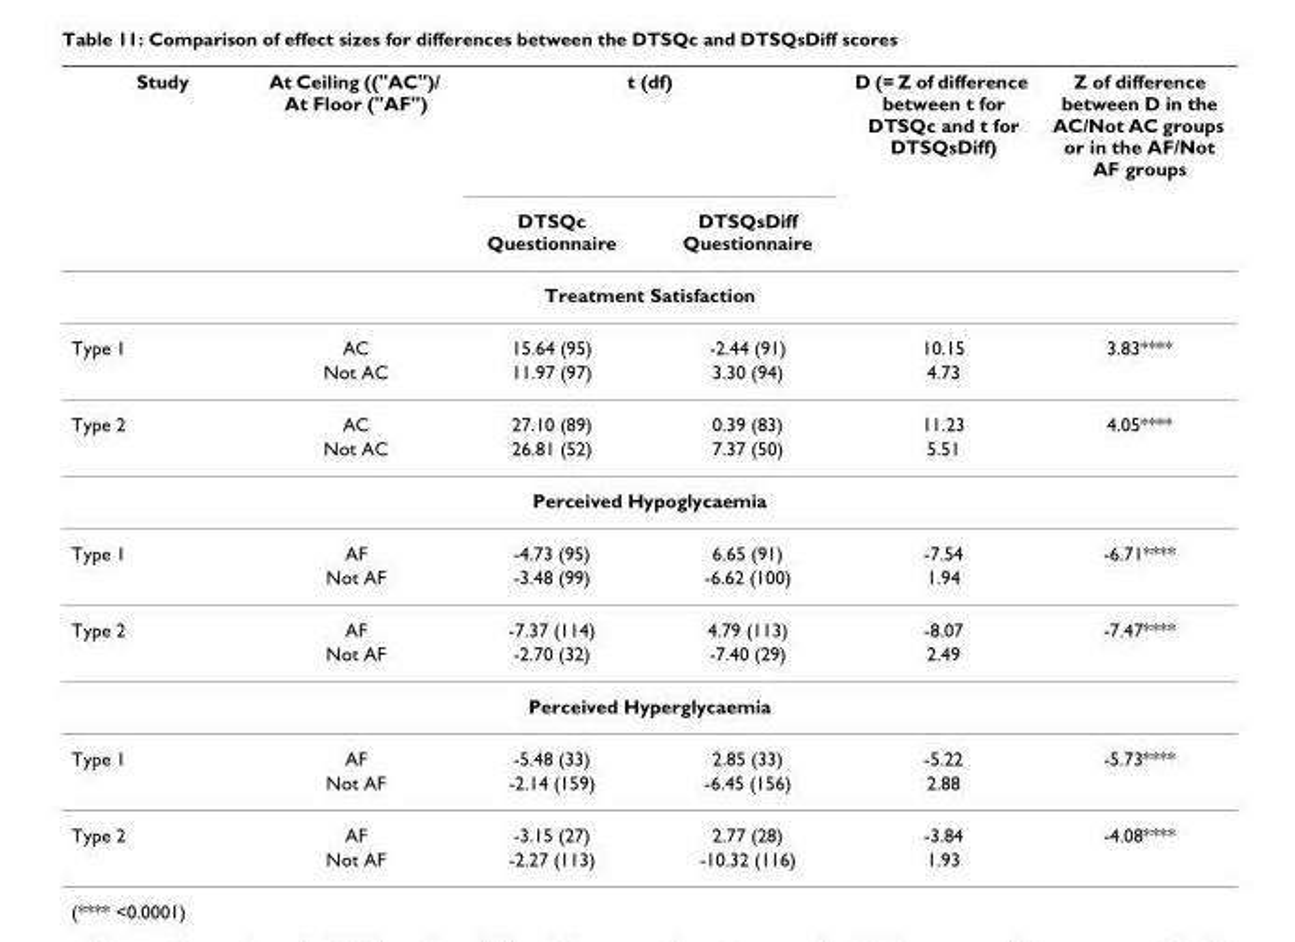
<table><thead><tr><td rowspan="2">Study</td><td rowspan="2">At Ceiling ((&quot;AC&quot;)/ At Floor (&quot;AF&quot;)</td><td colspan="2">t (df)</td><td rowspan="2">D (= Z of difference between t for DTSQc and t for DTSQsDiff)</td><td rowspan="2">Z of difference between D in the AC/Not AC groups or in the AF/Not AF groups</td></tr><tr><td>DTSQc Questionnaire</td><td>DTSQsDiff Questionnaire</td></tr></thead><tbody><tr><td colspan="6">Treatment Satisfaction</td></tr><tr><td rowspan="2">Type 1</td><td>AC</td><td>15.64 (95)</td><td>-2.44 (91)</td><td>10.15</td><td>3.83****</td></tr><tr><td>Not AC</td><td>11.97 (97)</td><td>3.30 (94)</td><td>4.73</td><td></td></tr><tr><td rowspan="2">Type 2</td><td>AC</td><td>27.10 (89)</td><td>0.39 (83)</td><td>11.23</td><td>4.05****</td></tr><tr><td>Not AC</td><td>26.81 (52)</td><td>7.37 (50)</td><td>5.51</td><td></td></tr><tr><td colspan="6">Perceived Hypoglycaemia</td></tr><tr><td rowspan="2">Type 1</td><td>AF</td><td>-4.73 (95)</td><td>6.65 (91)</td><td>-7.54</td><td>-6.71****</td></tr><tr><td>Not AF</td><td>-3.48 (99)</td><td>-6.62 (100)</td><td>1.94</td><td></td></tr><tr><td rowspan="2">Type 2</td><td>AF</td><td>-7.37 (114)</td><td>4.79 (113)</td><td>-8.07</td><td>-7.47****</td></tr><tr><td>Not AF</td><td>-2.70 (32)</td><td>-7.40 (29)</td><td>2.49</td><td></td></tr><tr><td colspan="6">Perceived Hyperglycaemia</td></tr><tr><td rowspan="2">Type 1</td><td>AF</td><td>-5.48 (33)</td><td>2.85 (33)</td><td>-5.22</td><td>-5.73****</td></tr><tr><td>Not AF</td><td>-2.14 (159)</td><td>-6.45 (156)</td><td>2.88</td><td></td></tr><tr><td rowspan="2">Type 2</td><td>AF</td><td>-3.15 (27)</td><td>2.77 (28)</td><td>-3.84</td><td>-4.08****</td></tr><tr><td>Not AF</td><td>-2.27 (113)</td><td>-10.32 (116)</td><td>1.93</td><td></td></tr></tbody></table>